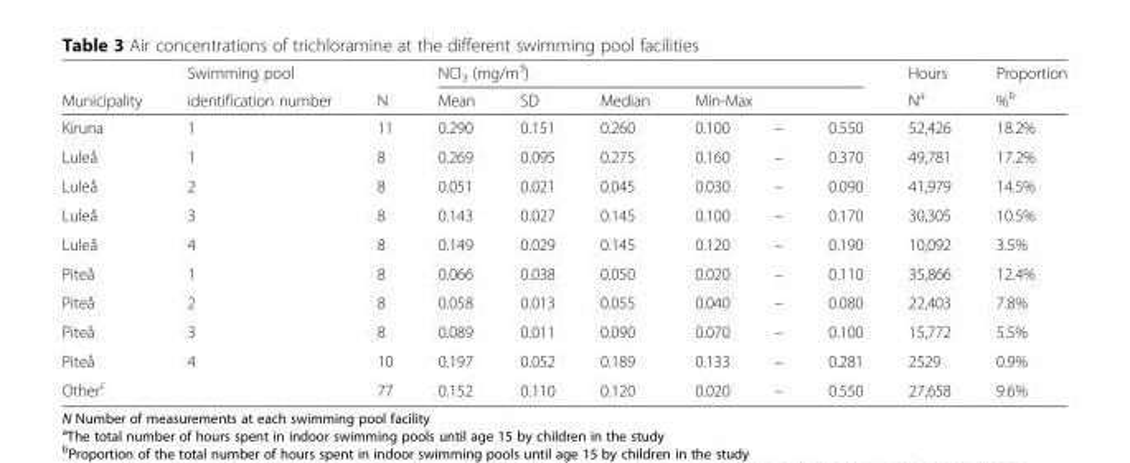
<table><thead><tr><td rowspan="3">Municipality Kiruna</td><td rowspan="3">Swimming pool identification number 1</td><td rowspan="3">N 11</td><td colspan="6">NCl<sub>3</sub> (mg/m<sup>3</sup>)</td><td rowspan="3">Hours N<sup>a</sup> 52,426</td><td rowspan="3">Proportion %<sup>b</sup> 18.2%</td></tr><tr><td rowspan="2">Mean 0.290</td><td rowspan="2">SD 0.151</td><td rowspan="2">Median 0.260</td><td colspan="3">Min-Max</td></tr><tr><td>0.100</td><td>–</td><td>0.550</td></tr></thead><tbody><tr><td>Luleå</td><td>1</td><td>8</td><td>0.269</td><td>0.095</td><td>0.275</td><td>0.160</td><td>–</td><td>0.370</td><td>49,781</td><td>17.2%</td></tr><tr><td>Luleå</td><td>2</td><td>8</td><td>0.051</td><td>0.021</td><td>0.045</td><td>0.030</td><td>–</td><td>0.090</td><td>41,979</td><td>14.5%</td></tr><tr><td>Luleå</td><td>3</td><td>8</td><td>0.143</td><td>0.027</td><td>0.145</td><td>0.100</td><td>–</td><td>0.170</td><td>30,305</td><td>10.5%</td></tr><tr><td>Luleå</td><td>4</td><td>8</td><td>0.149</td><td>0.029</td><td>0.145</td><td>0.120</td><td>–</td><td>0.190</td><td>10,092</td><td>3.5%</td></tr><tr><td>Piteå</td><td>1</td><td>8</td><td>0.066</td><td>0.038</td><td>0.050</td><td>0.020</td><td>–</td><td>0.110</td><td>35,866</td><td>12.4%</td></tr><tr><td>Piteå</td><td>2</td><td>8</td><td>0.058</td><td>0.013</td><td>0.055</td><td>0.040</td><td>–</td><td>0.080</td><td>22,403</td><td>7.8%</td></tr><tr><td>Piteå</td><td>3</td><td>8</td><td>0.089</td><td>0.011</td><td>0.090</td><td>0.070</td><td>–</td><td>0.100</td><td>15,772</td><td>5.5%</td></tr><tr><td>Piteå</td><td>4</td><td>10</td><td>0.197</td><td>0.052</td><td>0.189</td><td>0.133</td><td>–</td><td>0.281</td><td>2529</td><td>0.9%</td></tr><tr><td>Other<sup>c</sup></td><td></td><td>77</td><td>0.152</td><td>0.110</td><td>0.120</td><td>0.020</td><td>–</td><td>0.550</td><td>27,658</td><td>9.6%</td></tr></tbody></table>